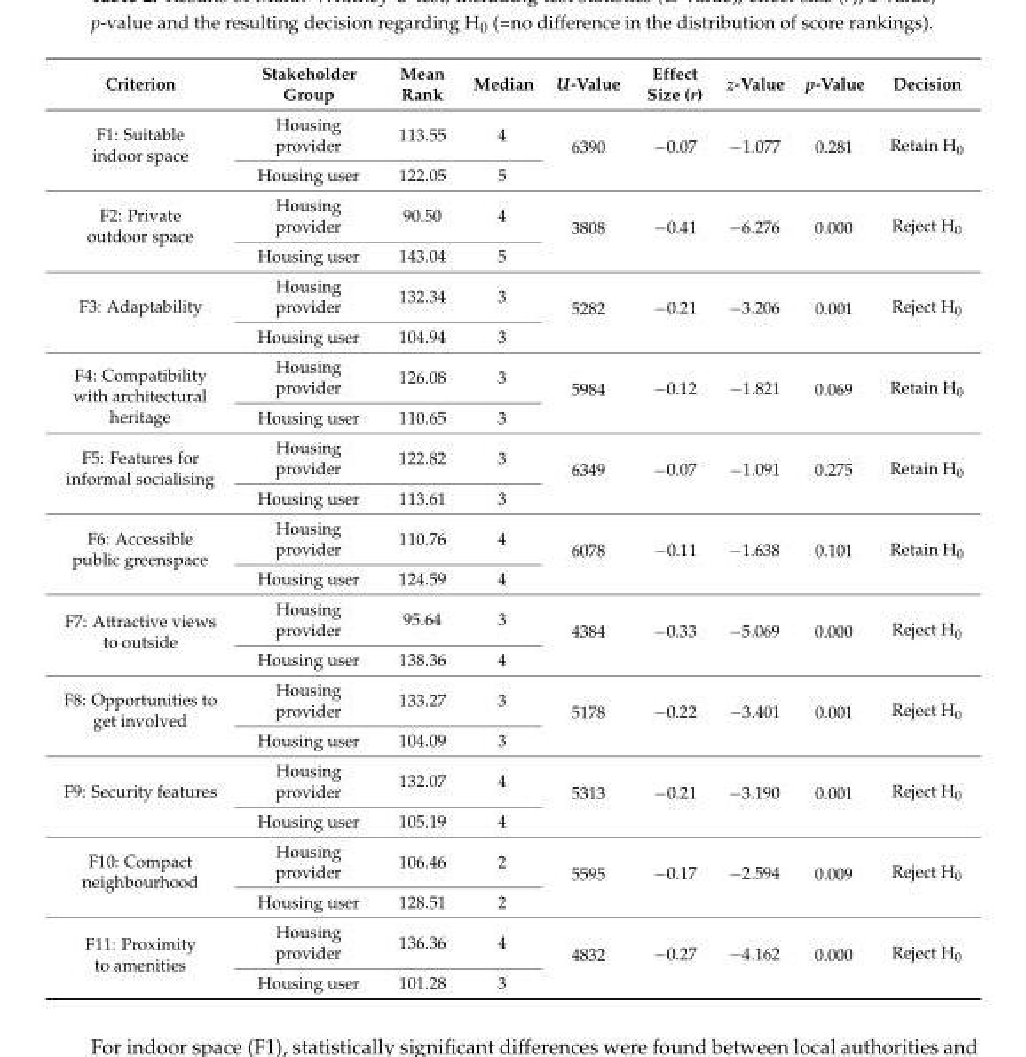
<table><thead><tr><td>Criterion</td><td>Stakeholder Group</td><td>Mean Rank</td><td>Median</td><td>U-Value</td><td>Effect Size (r)</td><td>z-Value</td><td>p-Value</td><td>Decision</td></tr></thead><tbody><tr><td rowspan="2">F1: Suitable indoor space</td><td>Housing provider</td><td>113.55</td><td>4</td><td rowspan="2">6390</td><td rowspan="2">−0.07</td><td rowspan="2">−1.077</td><td rowspan="2">0.281</td><td rowspan="2">Retain H<sub>0</sub></td></tr><tr><td>Housing user</td><td>122.05</td><td>5</td></tr><tr><td rowspan="2">F2: Private outdoor space</td><td>Housing provider</td><td>90.50</td><td>4</td><td rowspan="2">3808</td><td rowspan="2">−0.41</td><td rowspan="2">−6.276</td><td rowspan="2">0.000</td><td rowspan="2">Reject H<sub>0</sub></td></tr><tr><td>Housing user</td><td>143.04</td><td>5</td></tr><tr><td rowspan="2">F3: Adaptability</td><td>Housing provider</td><td>132.34</td><td>3</td><td rowspan="2">5282</td><td rowspan="2">−0.21</td><td rowspan="2">−3.206</td><td rowspan="2">0.001</td><td rowspan="2">Reject H<sub>0</sub></td></tr><tr><td>Housing user</td><td>104.94</td><td>3</td></tr><tr><td rowspan="2">F4: Compatibility with architectural heritage</td><td>Housing provider</td><td>126.08</td><td>3</td><td rowspan="2">5984</td><td rowspan="2">−0.12</td><td rowspan="2">−1.821</td><td rowspan="2">0.069</td><td rowspan="2">Retain H<sub>0</sub></td></tr><tr><td>Housing user</td><td>110.65</td><td>3</td></tr><tr><td rowspan="2">F5: Features for informal socialising</td><td>Housing provider</td><td>122.82</td><td>3</td><td rowspan="2">6349</td><td rowspan="2">−0.07</td><td rowspan="2">−1.091</td><td rowspan="2">0.275</td><td rowspan="2">Retain H<sub>0</sub></td></tr><tr><td>Housing user</td><td>113.61</td><td>3</td></tr><tr><td rowspan="2">F6: Accessible public greenspace</td><td>Housing provider</td><td>110.76</td><td>4</td><td rowspan="2">6078</td><td rowspan="2">−0.11</td><td rowspan="2">−1.638</td><td rowspan="2">0.101</td><td rowspan="2">Retain H<sub>0</sub></td></tr><tr><td>Housing user</td><td>124.59</td><td>4</td></tr><tr><td rowspan="2">F7: Attractive views to outside</td><td>Housing provider</td><td>95.64</td><td>3</td><td rowspan="2">4384</td><td rowspan="2">−0.33</td><td rowspan="2">−5.069</td><td rowspan="2">0.000</td><td rowspan="2">Reject H<sub>0</sub></td></tr><tr><td>Housing user</td><td>138.36</td><td>4</td></tr><tr><td rowspan="2">F8: Opportunities to get involved</td><td>Housing provider</td><td>133.27</td><td>3</td><td rowspan="2">5178</td><td rowspan="2">−0.22</td><td rowspan="2">−3.401</td><td rowspan="2">0.001</td><td rowspan="2">Reject H<sub>0</sub></td></tr><tr><td>Housing user</td><td>104.09</td><td>3</td></tr><tr><td rowspan="2">F9: Security features</td><td>Housing provider</td><td>132.07</td><td>4</td><td rowspan="2">5313</td><td rowspan="2">−0.21</td><td rowspan="2">−3.190</td><td rowspan="2">0.001</td><td rowspan="2">Reject H<sub>0</sub></td></tr><tr><td>Housing user</td><td>105.19</td><td>4</td></tr><tr><td rowspan="2">F10: Compact neighbourhood</td><td>Housing provider</td><td>106.46</td><td>2</td><td rowspan="2">5595</td><td rowspan="2">−0.17</td><td rowspan="2">−2.594</td><td rowspan="2">0.009</td><td rowspan="2">Reject H<sub>0</sub></td></tr><tr><td>Housing user</td><td>128.51</td><td>2</td></tr><tr><td rowspan="2">F11: Proximity to amenities</td><td>Housing provider</td><td>136.36</td><td>4</td><td rowspan="2">4832</td><td rowspan="2">−0.27</td><td rowspan="2">−4.162</td><td rowspan="2">0.000</td><td rowspan="2">Reject H<sub>0</sub></td></tr><tr><td>Housing user</td><td>101.28</td><td>3</td></tr></tbody></table>